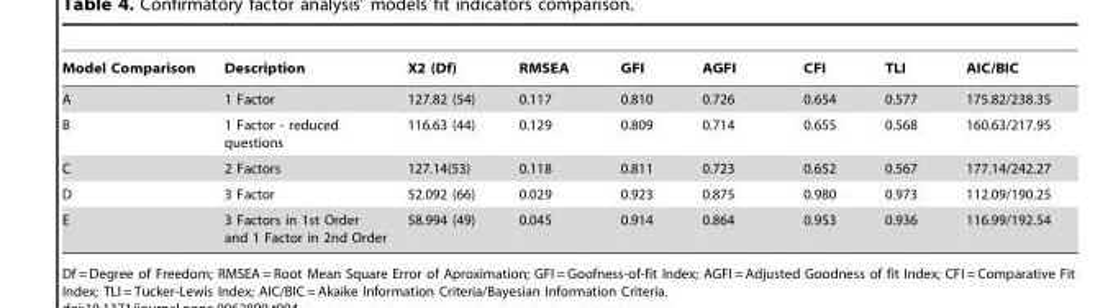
<table><thead><tr><td>Model Comparison</td><td>Description</td><td>X2 (Df)</td><td>RMSEA</td><td>GFI</td><td>AGFI</td><td>CFI</td><td>TLI</td><td>AIC/BIC</td></tr></thead><tbody><tr><td>A</td><td>1 Factor</td><td>127.82 (54)</td><td>0.117</td><td>0.810</td><td>0.726</td><td>0.654</td><td>0.577</td><td>175.82/238.35</td></tr><tr><td>B</td><td>1 Factor - reduced questions</td><td>116.63 (44)</td><td>0.129</td><td>0.809</td><td>0.714</td><td>0.655</td><td>0.568</td><td>160.63/217.95</td></tr><tr><td>C</td><td>2 Factors</td><td>127.14(53)</td><td>0.118</td><td>0.811</td><td>0.723</td><td>0.652</td><td>0.567</td><td>177.14/242.27</td></tr><tr><td>D</td><td>3 Factor</td><td>52.092 (66)</td><td>0.029</td><td>0.923</td><td>0.875</td><td>0.980</td><td>0.973</td><td>112.09/190.25</td></tr><tr><td>E</td><td>3 Factors in 1st Order and 1 Factor in 2nd Order</td><td>58.994 (49)</td><td>0.045</td><td>0.914</td><td>0.864</td><td>0.953</td><td>0.936</td><td>116.99/192.54</td></tr></tbody></table>